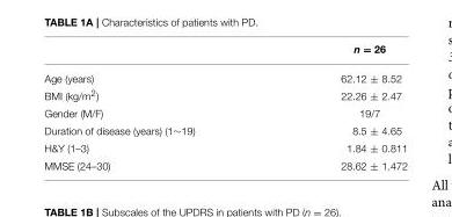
<table><thead><tr><td></td><td>n = 26</td></tr></thead><tbody><tr><td>Age (years)</td><td>62.12 ± 8.52</td></tr><tr><td>BMI (kg/m<sup>2</sup>)</td><td>22.26 ± 2.47</td></tr><tr><td>Gender (M/F)</td><td>19/7</td></tr><tr><td>Duration of disease (years) (1∼19)</td><td>8.5 ± 4.65</td></tr><tr><td>H&amp;Y (1–3)</td><td>1.84 ± 0.811</td></tr><tr><td>MMSE (24–30)</td><td>28.62 ± 1.472</td></tr></tbody></table>